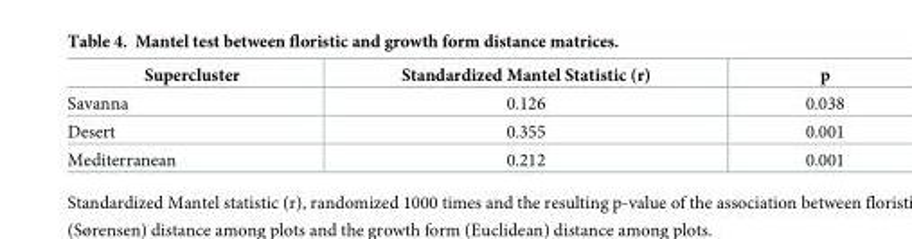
<table><thead><tr><td>Supercluster</td><td>Standardized Mantel Statistic (r)</td><td>p</td></tr></thead><tbody><tr><td>Savanna</td><td>0.126</td><td>0.038</td></tr><tr><td>Desert</td><td>0.355</td><td>0.001</td></tr><tr><td>Mediterranean</td><td>0.212</td><td>0.001</td></tr></tbody></table>